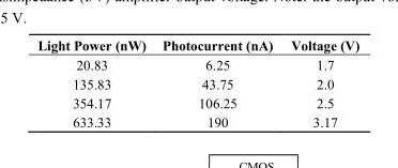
<table><thead><tr><td>Light Power (nW)</td><td>Photocurrent (nA)</td><td>Voltage (V)</td></tr></thead><tbody><tr><td>20.83</td><td>6.25</td><td>1.7</td></tr><tr><td>135.83</td><td>43.75</td><td>2.0</td></tr><tr><td>354.17</td><td>106.25</td><td>2.5</td></tr><tr><td>633.33</td><td>190</td><td>3.17</td></tr></tbody></table>